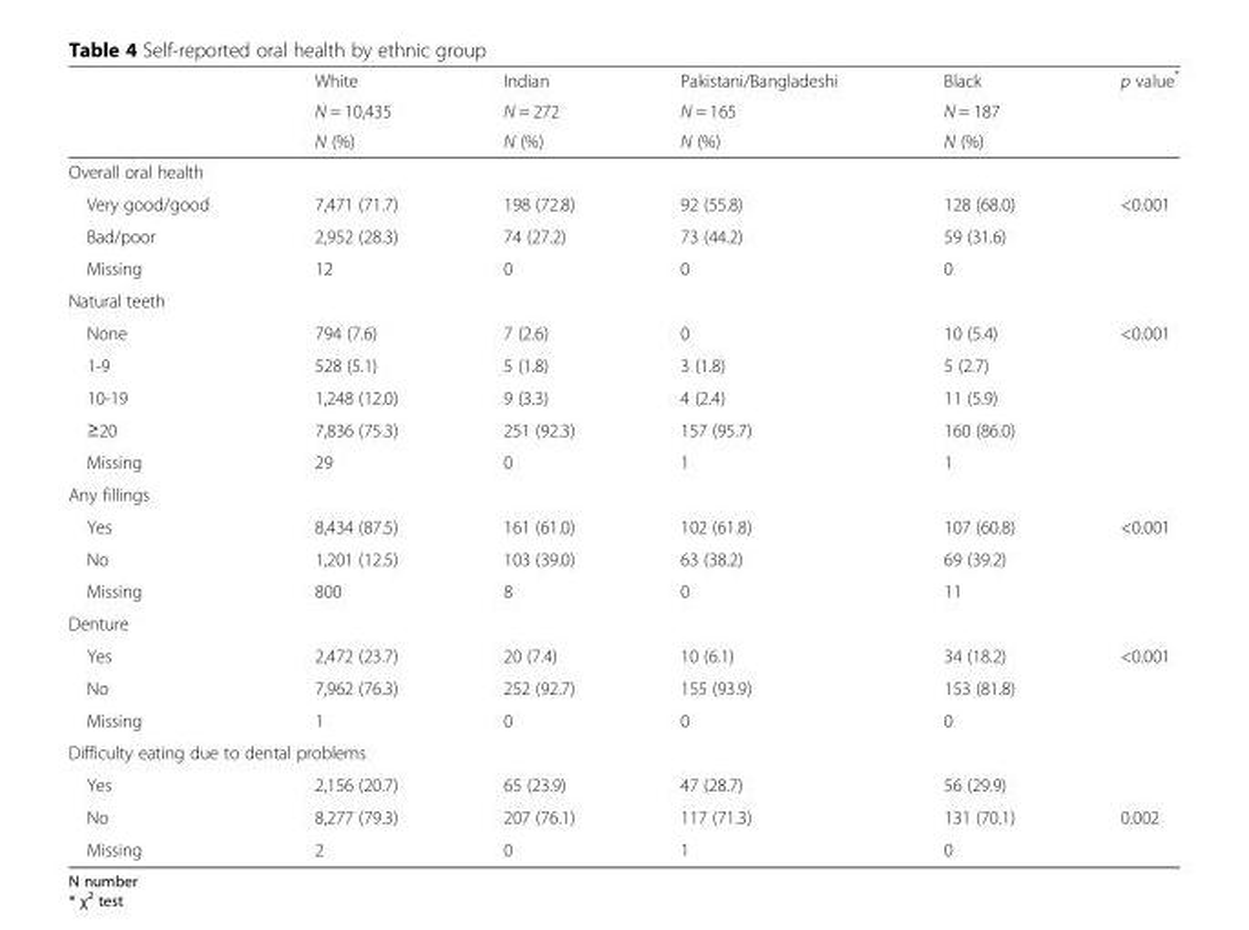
<table><thead><tr><td rowspan="3"></td><td rowspan="3">White N = 10,435 N (%)</td><td rowspan="3">Indian N = 272 N (%)</td><td rowspan="3">Pakistani/Bangladeshi N = 165 N (%)</td><td rowspan="3">Black N = 187 N (%)</td><td rowspan="3">p value*</td></tr><tr></tr><tr></tr></thead><tbody><tr><td colspan="6">Overall oral health</td></tr><tr><td>Very good/good</td><td>7,471 (71.7)</td><td>198 (72.8)</td><td>92 (55.8)</td><td>128 (68.0)</td><td>&lt;0.001</td></tr><tr><td>Bad/poor</td><td>2,952 (28.3)</td><td>74 (27.2)</td><td>73 (44.2)</td><td>59 (31.6)</td><td></td></tr><tr><td>Missing</td><td>12</td><td>0</td><td>0</td><td>0</td><td></td></tr><tr><td colspan="6">Natural teeth</td></tr><tr><td>None</td><td>794 (7.6)</td><td>7 (2.6)</td><td>0</td><td>10 (5.4)</td><td>&lt;0.001</td></tr><tr><td>1-9</td><td>528 (5.1)</td><td>5 (1.8)</td><td>3 (1.8)</td><td>5 (2.7)</td><td></td></tr><tr><td>10-19</td><td>1,248 (12.0)</td><td>9 (3.3)</td><td>4 (2.4)</td><td>11 (5.9)</td><td></td></tr><tr><td>≥20</td><td>7,836 (75.3)</td><td>251 (92.3)</td><td>157 (95.7)</td><td>160 (86.0)</td><td></td></tr><tr><td>Missing</td><td>29</td><td>0</td><td>1</td><td>1</td><td></td></tr><tr><td colspan="6">Any fillings</td></tr><tr><td>Yes</td><td>8,434 (87.5)</td><td>161 (61.0)</td><td>102 (61.8)</td><td>107 (60.8)</td><td>&lt;0.001</td></tr><tr><td>No</td><td>1,201 (12.5)</td><td>103 (39.0)</td><td>63 (38.2)</td><td>69 (39.2)</td><td></td></tr><tr><td>Missing</td><td>800</td><td>8</td><td>0</td><td>11</td><td></td></tr><tr><td colspan="6">Denture</td></tr><tr><td>Yes</td><td>2,472 (23.7)</td><td>20 (7.4)</td><td>10 (6.1)</td><td>34 (18.2)</td><td>&lt;0.001</td></tr><tr><td>No</td><td>7,962 (76.3)</td><td>252 (92.7)</td><td>155 (93.9)</td><td>153 (81.8)</td><td></td></tr><tr><td>Missing</td><td>1</td><td>0</td><td>0</td><td>0</td><td></td></tr><tr><td colspan="6">Difficulty eating due to dental problems</td></tr><tr><td>Yes</td><td>2,156 (20.7)</td><td>65 (23.9)</td><td>47 (28.7)</td><td>56 (29.9)</td><td></td></tr><tr><td>No</td><td>8,277 (79.3)</td><td>207 (76.1)</td><td>117 (71.3)</td><td>131 (70.1)</td><td>0.002</td></tr><tr><td>Missing</td><td>2</td><td>0</td><td>1</td><td>0</td><td></td></tr></tbody></table>